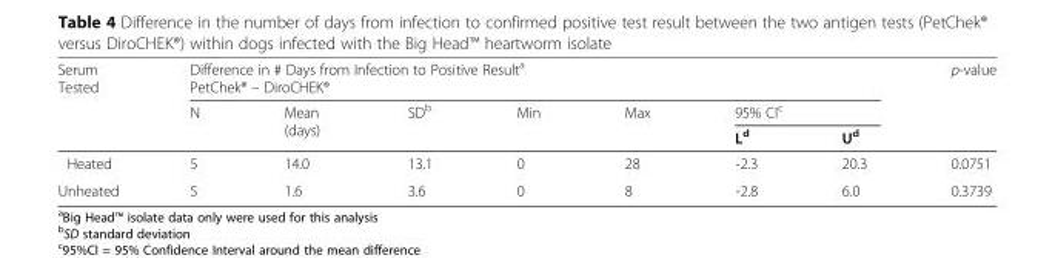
<table><thead><tr><td rowspan="3">Serum Tested</td><td colspan="7">Difference in # Days from Infection to Positive Result<sup>a</sup> PetChek® – DiroCHEK®</td><td rowspan="3">p-value</td></tr><tr><td rowspan="2">N</td><td rowspan="2">Mean (days)</td><td rowspan="2">SD<sup>b</sup></td><td rowspan="2">Min</td><td rowspan="2">Max</td><td colspan="2">95% CI<sup>c</sup></td></tr><tr><td>L<sup>d</sup></td><td>U<sup>d</sup></td></tr></thead><tbody><tr><td>Heated</td><td>5</td><td>14.0</td><td>13.1</td><td>0</td><td>28</td><td>˗2.3</td><td>20.3</td><td>0.0751</td></tr><tr><td>Unheated</td><td>5</td><td>1.6</td><td>3.6</td><td>0</td><td>8</td><td>˗2.8</td><td>6.0</td><td>0.3739</td></tr></tbody></table>